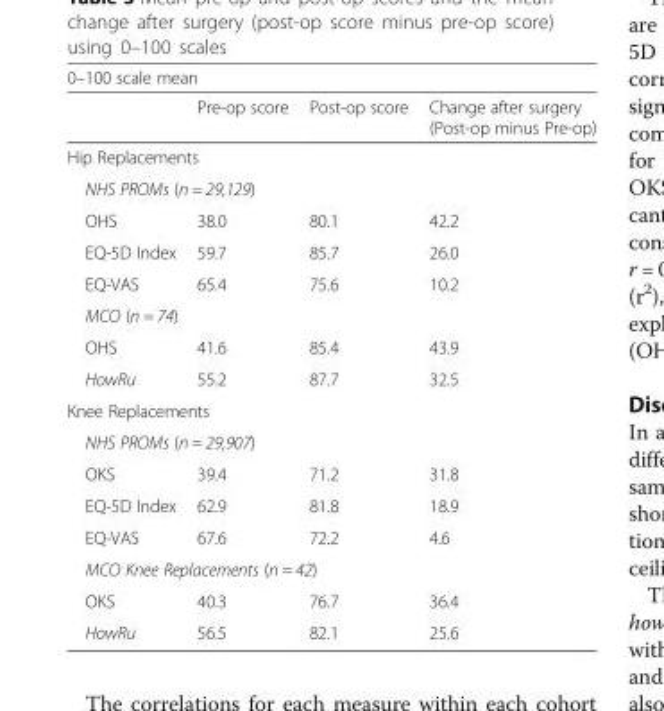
<table><thead><tr><td colspan="4">0–100 scale mean</td></tr><tr><td></td><td>Pre-op score</td><td>Post-op score</td><td>Change after surgery (Post-op minus Pre-op)</td></tr></thead><tbody><tr><td colspan="4">Hip Replacements</td></tr><tr><td colspan="4">NHS PROMs (n = 29,129)</td></tr><tr><td>OHS</td><td>38.0</td><td>80.1</td><td>42.2</td></tr><tr><td>EQ-5D Index</td><td>59.7</td><td>85.7</td><td>26.0</td></tr><tr><td>EQ-VAS</td><td>65.4</td><td>75.6</td><td>10.2</td></tr><tr><td colspan="4">MCO (n = 74)</td></tr><tr><td>OHS</td><td>41.6</td><td>85.4</td><td>43.9</td></tr><tr><td>HowRu</td><td>55.2</td><td>87.7</td><td>32.5</td></tr><tr><td colspan="4">Knee Replacements</td></tr><tr><td colspan="4">NHS PROMs (n = 29,907)</td></tr><tr><td>OKS</td><td>39.4</td><td>71.2</td><td>31.8</td></tr><tr><td>EQ-5D Index</td><td>62.9</td><td>81.8</td><td>18.9</td></tr><tr><td>EQ-VAS</td><td>67.6</td><td>72.2</td><td>4.6</td></tr><tr><td colspan="4">MCO Knee Replacements (n = 42)</td></tr><tr><td>OKS</td><td>40.3</td><td>76.7</td><td>36.4</td></tr><tr><td>HowRu</td><td>56.5</td><td>82.1</td><td>25.6</td></tr></tbody></table>